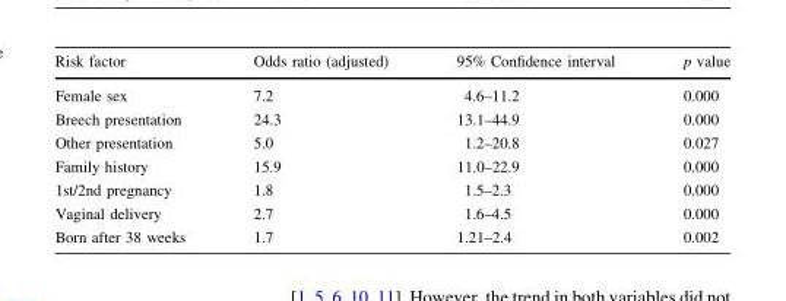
<table><thead><tr><td>Risk factor</td><td>Odds ratio (adjusted)</td><td>95% Confidence interval</td><td>p value</td></tr></thead><tbody><tr><td>Female sex</td><td>7.2</td><td>4.6–11.2</td><td>0.000</td></tr><tr><td>Breech presentation</td><td>24.3</td><td>13.1–44.9</td><td>0.000</td></tr><tr><td>Other presentation</td><td>5.0</td><td>1.2–20.8</td><td>0.027</td></tr><tr><td>Family history</td><td>15.9</td><td>11.0–22.9</td><td>0.000</td></tr><tr><td>1st/2nd pregnancy</td><td>1.8</td><td>1.5–2.3</td><td>0.000</td></tr><tr><td>Vaginal delivery</td><td>2.7</td><td>1.6–4.5</td><td>0.000</td></tr><tr><td>Born after 38 weeks</td><td>1.7</td><td>1.21–2.4</td><td>0.002</td></tr></tbody></table>